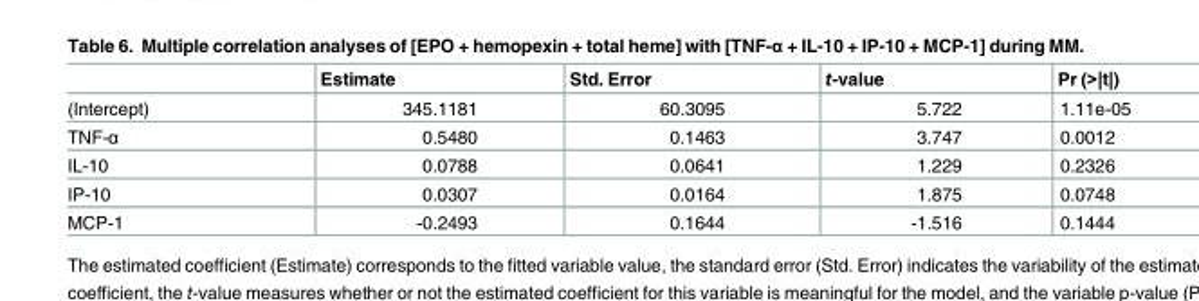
<table><thead><tr><td></td><td>Estimate</td><td>Std. Error</td><td>t-value</td><td>Pr (&gt;|t|)</td></tr></thead><tbody><tr><td>(Intercept)</td><td>345.1181</td><td>60.3095</td><td>5.722</td><td>1.11e-05</td></tr><tr><td>TNF-α</td><td>0.5480</td><td>0.1463</td><td>3.747</td><td>0.0012</td></tr><tr><td>IL-10</td><td>0.0788</td><td>0.0641</td><td>1.229</td><td>0.2326</td></tr><tr><td>IP-10</td><td>0.0307</td><td>0.0164</td><td>1.875</td><td>0.0748</td></tr><tr><td>MCP-1</td><td>-0.2493</td><td>0.1644</td><td>-1.516</td><td>0.1444</td></tr></tbody></table>